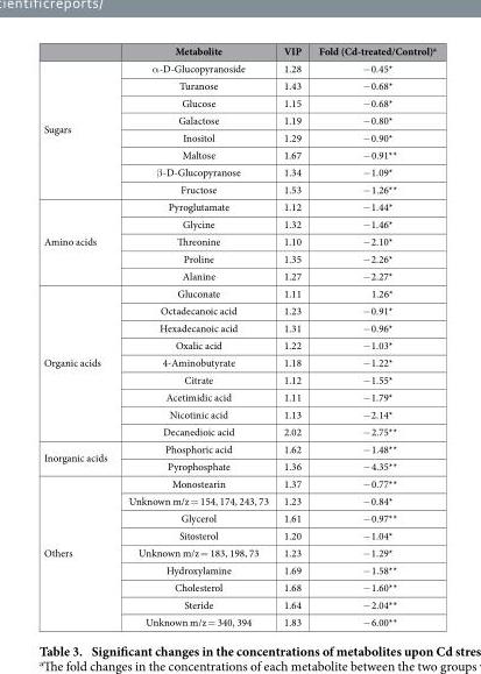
<table><thead><tr><td></td><td>Metabolite</td><td>VIP</td><td>Fold (Cd-treated/Control)<sup>a</sup></td></tr></thead><tbody><tr><td rowspan="8">Sugars</td><td>α -D-Glucopyranoside</td><td>1.28</td><td>− 0.45*</td></tr><tr><td>Turanose</td><td>1.43</td><td>− 0.68*</td></tr><tr><td>Glucose</td><td>1.15</td><td>− 0.68*</td></tr><tr><td>Galactose</td><td>1.19</td><td>− 0.80*</td></tr><tr><td>Inositol</td><td>1.29</td><td>− 0.90*</td></tr><tr><td>Maltose</td><td>1.67</td><td>− 0.91**</td></tr><tr><td>β -D-Glucopyranose</td><td>1.34</td><td>− 1.09*</td></tr><tr><td>Fructose</td><td>1.53</td><td>− 1.26**</td></tr><tr><td rowspan="5">Amino acids</td><td>Pyroglutamate</td><td>1.12</td><td>− 1.44*</td></tr><tr><td>Glycine</td><td>1.32</td><td>− 1.46*</td></tr><tr><td>Threonine</td><td>1.10</td><td>− 2.10*</td></tr><tr><td>Proline</td><td>1.35</td><td>− 2.26*</td></tr><tr><td>Alanine</td><td>1.27</td><td>− 2.27*</td></tr><tr><td rowspan="9">Organic acids</td><td>Gluconate</td><td>1.11</td><td>1.26*</td></tr><tr><td>Octadecanoic acid</td><td>1.23</td><td>− 0.91*</td></tr><tr><td>Hexadecanoic acid</td><td>1.31</td><td>− 0.96*</td></tr><tr><td>Oxalic acid</td><td>1.22</td><td>− 1.03*</td></tr><tr><td>4-Aminobutyrate</td><td>1.18</td><td>− 1.22*</td></tr><tr><td>Citrate</td><td>1.12</td><td>− 1.55*</td></tr><tr><td>Acetimidic acid</td><td>1.11</td><td>− 1.79*</td></tr><tr><td>Nicotinic acid</td><td>1.13</td><td>− 2.14*</td></tr><tr><td>Decanedioic acid</td><td>2.02</td><td>− 2.75**</td></tr><tr><td rowspan="2">Inorganic acids</td><td>Phosphoric acid</td><td>1.62</td><td>− 1.48**</td></tr><tr><td>Pyrophosphate</td><td>1.36</td><td>− 4.35**</td></tr><tr><td rowspan="9">Others</td><td>Monostearin</td><td>1.37</td><td>− 0.77**</td></tr><tr><td>Unknown m/z = 154, 174, 243, 73</td><td>1.23</td><td>− 0.84*</td></tr><tr><td>Glycerol</td><td>1.61</td><td>− 0.97**</td></tr><tr><td>Sitosterol</td><td>1.20</td><td>− 1.04*</td></tr><tr><td>Unknown m/z = 183, 198, 73</td><td>1.23</td><td>− 1.29*</td></tr><tr><td>Hydroxylamine</td><td>1.69</td><td>− 1.58**</td></tr><tr><td>Cholesterol</td><td>1.68</td><td>− 1.60**</td></tr><tr><td>Steride</td><td>1.64</td><td>− 2.04**</td></tr><tr><td>Unknown m/z = 340, 394</td><td>1.83</td><td>− 6.00**</td></tr></tbody></table>